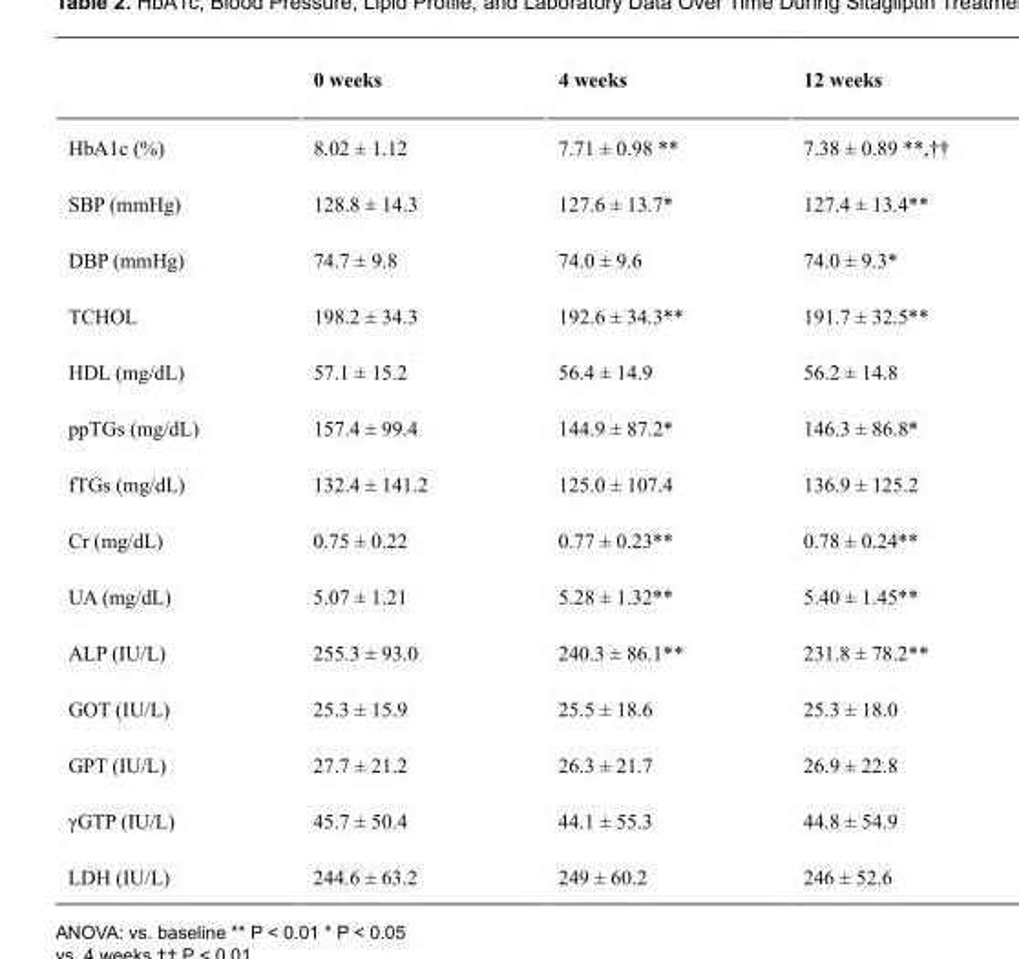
<table><thead><tr><td></td><td>0 weeks</td><td>4 weeks</td><td>12 weeks</td></tr></thead><tbody><tr><td>HbA1c (%)</td><td>8.02 ± 1.12</td><td>7.71 ± 0.98 **</td><td>7.38 ± 0.89 **,††</td></tr><tr><td>SBP (mmHg)</td><td>128.8 ± 14.3</td><td>127.6 ± 13.7*</td><td>127.4 ± 13.4**</td></tr><tr><td>DBP (mmHg)</td><td>74.7 ± 9.8</td><td>74.0 ± 9.6</td><td>74.0 ± 9.3*</td></tr><tr><td>TCHOL</td><td>198.2 ± 34.3</td><td>192.6 ± 34.3**</td><td>191.7 ± 32.5**</td></tr><tr><td>HDL (mg/dL)</td><td>57.1 ± 15.2</td><td>56.4 ± 14.9</td><td>56.2 ± 14.8</td></tr><tr><td>ppTGs (mg/dL)</td><td>157.4 ± 99.4</td><td>144.9 ± 87.2*</td><td>146.3 ± 86.8*</td></tr><tr><td>fTGs (mg/dL)</td><td>132.4 ± 141.2</td><td>125.0 ± 107.4</td><td>136.9 ± 125.2</td></tr><tr><td>Cr (mg/dL)</td><td>0.75 ± 0.22</td><td>0.77 ± 0.23**</td><td>0.78 ± 0.24**</td></tr><tr><td>UA (mg/dL)</td><td>5.07 ± 1.21</td><td>5.28 ± 1.32**</td><td>5.40 ± 1.45**</td></tr><tr><td>ALP (IU/L)</td><td>255.3 ± 93.0</td><td>240.3 ± 86.1**</td><td>231.8 ± 78.2**</td></tr><tr><td>GOT (IU/L)</td><td>25.3 ± 15.9</td><td>25.5 ± 18.6</td><td>25.3 ± 18.0</td></tr><tr><td>GPT (IU/L)</td><td>27.7 ± 21.2</td><td>26.3 ± 21.7</td><td>26.9 ± 22.8</td></tr><tr><td>γGTP (IU/L)</td><td>45.7 ± 50.4</td><td>44.1 ± 55.3</td><td>44.8 ± 54.9</td></tr><tr><td>LDH (IU/L)</td><td>244.6 ± 63.2</td><td>249 ± 60.2</td><td>246 ± 52.6</td></tr></tbody></table>